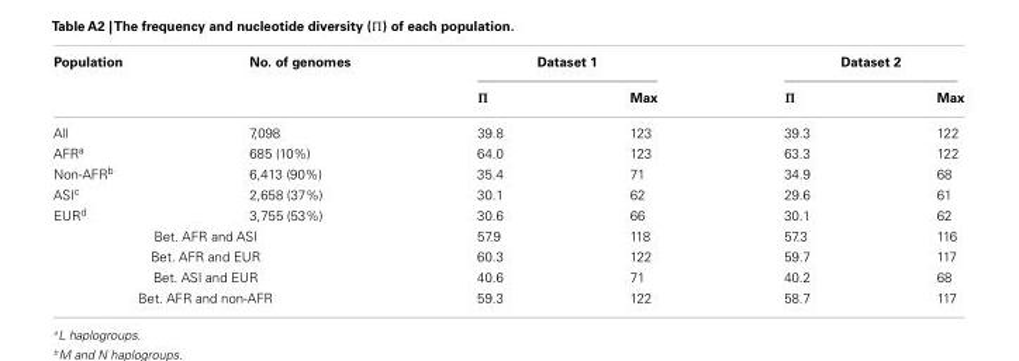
<table><thead><tr><td rowspan="2">Population</td><td rowspan="2">No. of genomes</td><td colspan="2">Dataset 1</td><td colspan="2">Dataset 2</td></tr><tr><td>Π</td><td>Max</td><td>Π</td><td>Max</td></tr></thead><tbody><tr><td>All</td><td>7,098</td><td>39.8</td><td>123</td><td>39.3</td><td>122</td></tr><tr><td>AFR<sup>a</sup></td><td>685 (10%)</td><td>64.0</td><td>123</td><td>63.3</td><td>122</td></tr><tr><td>Non-AFR<sup>b</sup></td><td>6,413 (90%)</td><td>35.4</td><td>71</td><td>34.9</td><td>68</td></tr><tr><td>ASI<sup>c</sup></td><td>2,658 (37%)</td><td>30.1</td><td>62</td><td>29.6</td><td>61</td></tr><tr><td>EUR<sup>d</sup></td><td>3,755 (53%)</td><td>30.6</td><td>66</td><td>30.1</td><td>62</td></tr><tr><td colspan="2">Bet. AFR and ASI</td><td>57.9</td><td>118</td><td>57.3</td><td>116</td></tr><tr><td colspan="2">Bet. AFR and EUR</td><td>60.3</td><td>122</td><td>59.7</td><td>117</td></tr><tr><td colspan="2">Bet. ASI and EUR</td><td>40.6</td><td>71</td><td>40.2</td><td>68</td></tr><tr><td colspan="2">Bet. AFR and non-AFR</td><td>59.3</td><td>122</td><td>58.7</td><td>117</td></tr></tbody></table>